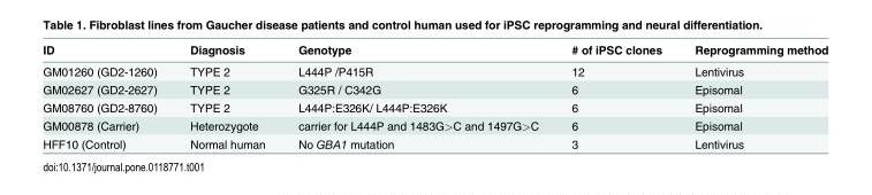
<table><thead><tr><td>ID</td><td>Diagnosis</td><td>Genotype</td><td># of iPSC clones</td><td>Reprogramming method</td></tr></thead><tbody><tr><td>GM01260 (GD2-1260)</td><td>TYPE 2</td><td>L444P /P415R</td><td>12</td><td>Lentivirus</td></tr><tr><td>GM02627 (GD2-2627)</td><td>TYPE 2</td><td>G325R / C342G</td><td>6</td><td>Episomal</td></tr><tr><td>GM08760 (GD2-8760)</td><td>TYPE 2</td><td>L444P:E326K/ L444P:E326K</td><td>6</td><td>Episomal</td></tr><tr><td>GM00878 (Carrier)</td><td>Heterozygote</td><td>carrier for L444P and 1483G&gt;C and 1497G&gt;C</td><td>6</td><td>Episomal</td></tr><tr><td>HFF10 (Control)</td><td>Normal human</td><td>No GBA1 mutation</td><td>3</td><td>Lentivirus</td></tr></tbody></table>